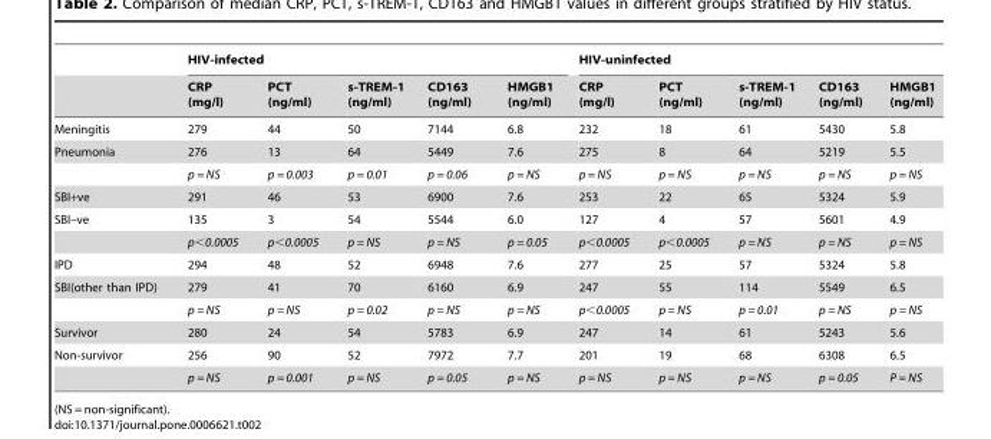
<table><thead><tr><td rowspan="2"></td><td colspan="5">HIV-infected</td><td colspan="5">HIV-uninfected</td></tr><tr><td>CRP (mg/l)</td><td>PCT (ng/ml)</td><td>s-TREM-1 (ng/ml)</td><td>CD163 (ng/ml)</td><td>HMGB1 (ng/ml)</td><td>CRP (mg/l)</td><td>PCT (ng/ml)</td><td>s-TREM-1 (ng/ml)</td><td>CD163 (ng/ml)</td><td>HMGB1 (ng/ml)</td></tr></thead><tbody><tr><td>Meningitis</td><td>279</td><td>44</td><td>50</td><td>7144</td><td>6.8</td><td>232</td><td>18</td><td>61</td><td>5430</td><td>5.8</td></tr><tr><td rowspan="2">Pneumonia</td><td>276</td><td>13</td><td>64</td><td>5449</td><td>7.6</td><td>275</td><td>8</td><td>64</td><td>5219</td><td>5.5</td></tr><tr><td>p = NS</td><td>p = 0.003</td><td>p = 0.01</td><td>p = 0.06</td><td>p = NS</td><td>p = NS</td><td>p = NS</td><td>p = NS</td><td>p = NS</td><td>p = NS</td></tr><tr><td>SBI+ve</td><td>291</td><td>46</td><td>53</td><td>6900</td><td>7.6</td><td>253</td><td>22</td><td>65</td><td>5324</td><td>5.9</td></tr><tr><td rowspan="2">SBI–ve</td><td>135</td><td>3</td><td>54</td><td>5544</td><td>6.0</td><td>127</td><td>4</td><td>57</td><td>5601</td><td>4.9</td></tr><tr><td>p&lt;0.0005</td><td>p&lt;0.0005</td><td>p = NS</td><td>p = NS</td><td>p = 0.05</td><td>p&lt;0.0005</td><td>p&lt;0.0005</td><td>p = NS</td><td>p = NS</td><td>p = NS</td></tr><tr><td>IPD</td><td>294</td><td>48</td><td>52</td><td>6948</td><td>7.6</td><td>277</td><td>25</td><td>57</td><td>5324</td><td>5.8</td></tr><tr><td rowspan="2">SBI(other than IPD)</td><td>279</td><td>41</td><td>70</td><td>6160</td><td>6.9</td><td>247</td><td>55</td><td>114</td><td>5549</td><td>6.5</td></tr><tr><td>p = NS</td><td>p = NS</td><td>p = 0.02</td><td>p = NS</td><td>p = NS</td><td>p&lt;0.0005</td><td>p = NS</td><td>p = 0.01</td><td>p = NS</td><td>p = NS</td></tr><tr><td>Survivor</td><td>280</td><td>24</td><td>54</td><td>5783</td><td>6.9</td><td>247</td><td>14</td><td>61</td><td>5243</td><td>5.6</td></tr><tr><td rowspan="2">Non-survivor</td><td>256</td><td>90</td><td>52</td><td>7972</td><td>7.7</td><td>201</td><td>19</td><td>68</td><td>6308</td><td>6.5</td></tr><tr><td>p = NS</td><td>p = 0.001</td><td>p = NS</td><td>p = 0.05</td><td>p = NS</td><td>p = NS</td><td>p = NS</td><td>p = NS</td><td>p = 0.05</td><td>P = NS</td></tr></tbody></table>